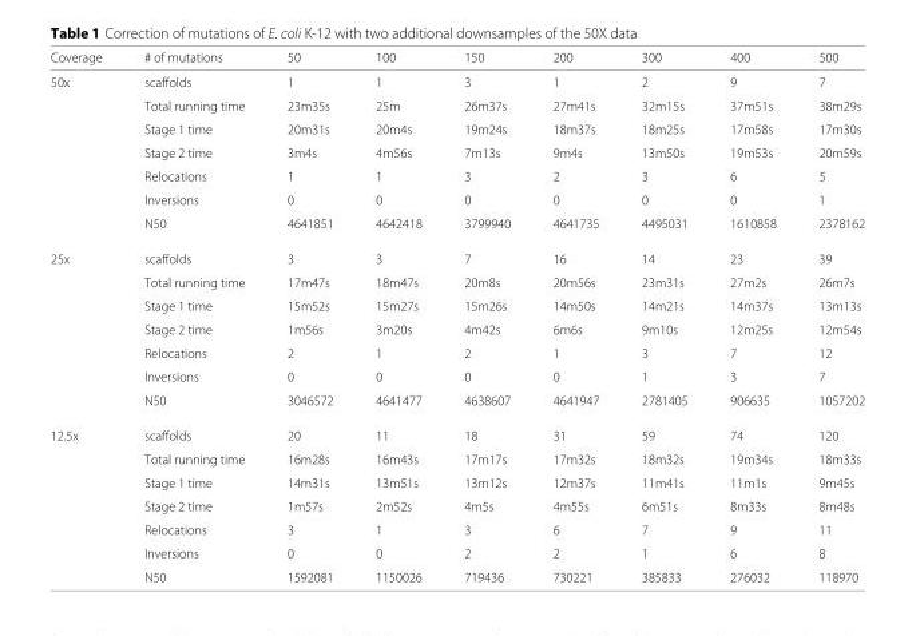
<table><thead><tr><td>Coverage</td><td># of mutations</td><td>50</td><td>100</td><td>150</td><td>200</td><td>300</td><td>400</td><td>500</td></tr></thead><tbody><tr><td rowspan="7">50x</td><td>scaffolds</td><td>1</td><td>1</td><td>3</td><td>1</td><td>2</td><td>9</td><td>7</td></tr><tr><td>Total running time</td><td>23m35s</td><td>25m</td><td>26m37s</td><td>27m41s</td><td>32m15s</td><td>37m51s</td><td>38m29s</td></tr><tr><td>Stage 1 time</td><td>20m31s</td><td>20m4s</td><td>19m24s</td><td>18m37s</td><td>18m25s</td><td>17m58s</td><td>17m30s</td></tr><tr><td>Stage 2 time</td><td>3m4s</td><td>4m56s</td><td>7m13s</td><td>9m4s</td><td>13m50s</td><td>19m53s</td><td>20m59s</td></tr><tr><td>Relocations</td><td>1</td><td>1</td><td>3</td><td>2</td><td>3</td><td>6</td><td>5</td></tr><tr><td>Inversions</td><td>0</td><td>0</td><td>0</td><td>0</td><td>0</td><td>0</td><td>1</td></tr><tr><td>N50</td><td>4641851</td><td>4642418</td><td>3799940</td><td>4641735</td><td>4495031</td><td>1610858</td><td>2378162</td></tr><tr><td rowspan="7">25x</td><td>scaffolds</td><td>3</td><td>3</td><td>7</td><td>16</td><td>14</td><td>23</td><td>39</td></tr><tr><td>Total running time</td><td>17m47s</td><td>18m47s</td><td>20m8s</td><td>20m56s</td><td>23m31s</td><td>27m2s</td><td>26m7s</td></tr><tr><td>Stage 1 time</td><td>15m52s</td><td>15m27s</td><td>15m26s</td><td>14m50s</td><td>14m21s</td><td>14m37s</td><td>13m13s</td></tr><tr><td>Stage 2 time</td><td>1m56s</td><td>3m20s</td><td>4m42s</td><td>6m6s</td><td>9m10s</td><td>12m25s</td><td>12m54s</td></tr><tr><td>Relocations</td><td>2</td><td>1</td><td>2</td><td>1</td><td>3</td><td>7</td><td>12</td></tr><tr><td>Inversions</td><td>0</td><td>0</td><td>0</td><td>0</td><td>1</td><td>3</td><td>7</td></tr><tr><td>N50</td><td>3046572</td><td>4641477</td><td>4638607</td><td>4641947</td><td>2781405</td><td>906635</td><td>1057202</td></tr><tr><td rowspan="7">12.5x</td><td>scaffolds</td><td>20</td><td>11</td><td>18</td><td>31</td><td>59</td><td>74</td><td>120</td></tr><tr><td>Total running time</td><td>16m28s</td><td>16m43s</td><td>17m17s</td><td>17m32s</td><td>18m32s</td><td>19m34s</td><td>18m33s</td></tr><tr><td>Stage 1 time</td><td>14m31s</td><td>13m51s</td><td>13m12s</td><td>12m37s</td><td>11m41s</td><td>11m1s</td><td>9m45s</td></tr><tr><td>Stage 2 time</td><td>1m57s</td><td>2m52s</td><td>4m5s</td><td>4m55s</td><td>6m51s</td><td>8m33s</td><td>8m48s</td></tr><tr><td>Relocations</td><td>3</td><td>1</td><td>3</td><td>6</td><td>7</td><td>9</td><td>11</td></tr><tr><td>Inversions</td><td>0</td><td>0</td><td>2</td><td>2</td><td>1</td><td>6</td><td>8</td></tr><tr><td>N50</td><td>1592081</td><td>1150026</td><td>719436</td><td>730221</td><td>385833</td><td>276032</td><td>118970</td></tr></tbody></table>